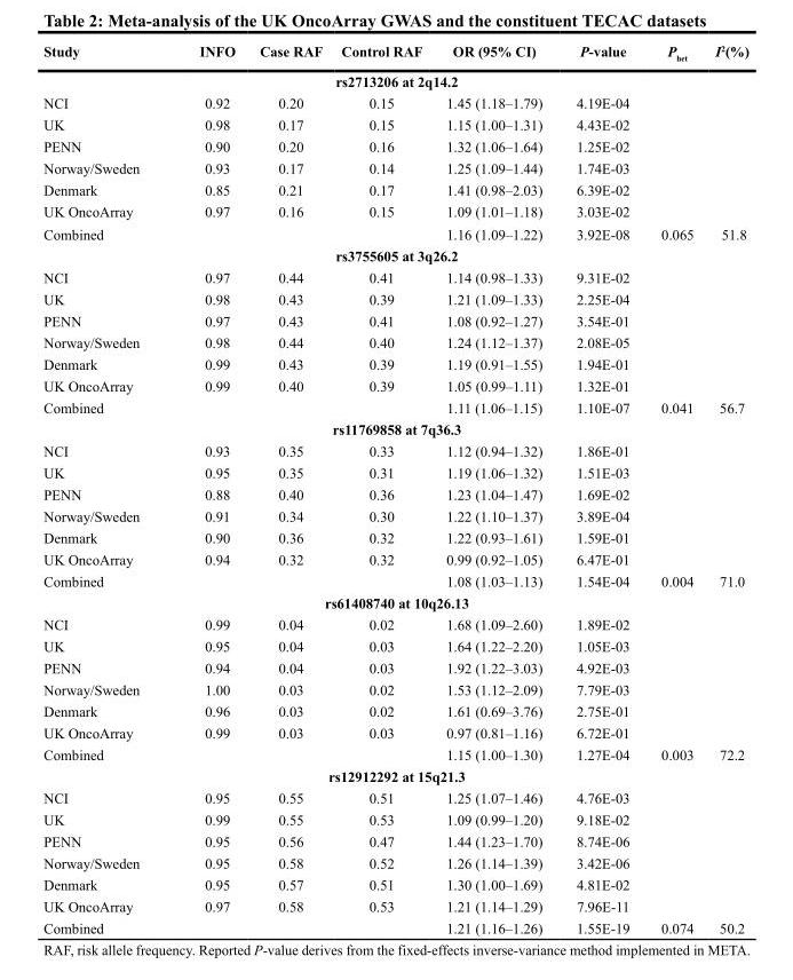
<table><thead><tr><td>Study</td><td>INFO</td><td>Case RAF</td><td>Control RAF</td><td>OR (95% CI)</td><td>P-value</td><td>P<sub>het</sub></td><td>I<sup>2</sup>(%)</td></tr></thead><tbody><tr><td colspan="8">rs2713206 at 2q14.2</td></tr><tr><td>NCI</td><td>0.92</td><td>0.20</td><td>0.15</td><td>1.45 (1.18–1.79)</td><td>4.19E-04</td><td></td><td></td></tr><tr><td>UK</td><td>0.98</td><td>0.17</td><td>0.15</td><td>1.15 (1.00–1.31)</td><td>4.43E-02</td><td></td><td></td></tr><tr><td>PENN</td><td>0.90</td><td>0.20</td><td>0.16</td><td>1.32 (1.06–1.64)</td><td>1.25E-02</td><td></td><td></td></tr><tr><td>Norway/Sweden</td><td>0.93</td><td>0.17</td><td>0.14</td><td>1.25 (1.09–1.44)</td><td>1.74E-03</td><td></td><td></td></tr><tr><td>Denmark</td><td>0.85</td><td>0.21</td><td>0.17</td><td>1.41 (0.98–2.03)</td><td>6.39E-02</td><td></td><td></td></tr><tr><td>UK OncoArray</td><td>0.97</td><td>0.16</td><td>0.15</td><td>1.09 (1.01–1.18)</td><td>3.03E-02</td><td></td><td></td></tr><tr><td>Combined</td><td></td><td></td><td></td><td>1.16 (1.09–1.22)</td><td>3.92E-08</td><td>0.065</td><td>51.8</td></tr><tr><td colspan="8">rs3755605 at 3q26.2</td></tr><tr><td>NCI</td><td>0.97</td><td>0.44</td><td>0.41</td><td>1.14 (0.98–1.33)</td><td>9.31E-02</td><td></td><td></td></tr><tr><td>UK</td><td>0.98</td><td>0.43</td><td>0.39</td><td>1.21 (1.09–1.33)</td><td>2.25E-04</td><td></td><td></td></tr><tr><td>PENN</td><td>0.97</td><td>0.43</td><td>0.41</td><td>1.08 (0.92–1.27)</td><td>3.54E-01</td><td></td><td></td></tr><tr><td>Norway/Sweden</td><td>0.98</td><td>0.44</td><td>0.40</td><td>1.24 (1.12–1.37)</td><td>2.08E-05</td><td></td><td></td></tr><tr><td>Denmark</td><td>0.99</td><td>0.43</td><td>0.39</td><td>1.19 (0.91–1.55)</td><td>1.94E-01</td><td></td><td></td></tr><tr><td>UK OncoArray</td><td>0.99</td><td>0.40</td><td>0.39</td><td>1.05 (0.99–1.11)</td><td>1.32E-01</td><td></td><td></td></tr><tr><td>Combined</td><td></td><td></td><td></td><td>1.11 (1.06–1.15)</td><td>1.10E-07</td><td>0.041</td><td>56.7</td></tr><tr><td colspan="8">rs11769858 at 7q36.3</td></tr><tr><td>NCI</td><td>0.93</td><td>0.35</td><td>0.33</td><td>1.12 (0.94–1.32)</td><td>1.86E-01</td><td></td><td></td></tr><tr><td>UK</td><td>0.95</td><td>0.35</td><td>0.31</td><td>1.19 (1.06–1.32)</td><td>1.51E-03</td><td></td><td></td></tr><tr><td>PENN</td><td>0.88</td><td>0.40</td><td>0.36</td><td>1.23 (1.04–1.47)</td><td>1.69E-02</td><td></td><td></td></tr><tr><td>Norway/Sweden</td><td>0.91</td><td>0.34</td><td>0.30</td><td>1.22 (1.10–1.37)</td><td>3.89E-04</td><td></td><td></td></tr><tr><td>Denmark</td><td>0.90</td><td>0.36</td><td>0.32</td><td>1.22 (0.93–1.61)</td><td>1.59E-01</td><td></td><td></td></tr><tr><td>UK OncoArray</td><td>0.94</td><td>0.32</td><td>0.32</td><td>0.99 (0.92–1.05)</td><td>6.47E-01</td><td></td><td></td></tr><tr><td>Combined</td><td></td><td></td><td></td><td>1.08 (1.03–1.13)</td><td>1.54E-04</td><td>0.004</td><td>71.0</td></tr><tr><td colspan="8">rs61408740 at 10q26.13</td></tr><tr><td>NCI</td><td>0.99</td><td>0.04</td><td>0.02</td><td>1.68 (1.09–2.60)</td><td>1.89E-02</td><td></td><td></td></tr><tr><td>UK</td><td>0.95</td><td>0.04</td><td>0.03</td><td>1.64 (1.22–2.20)</td><td>1.05E-03</td><td></td><td></td></tr><tr><td>PENN</td><td>0.94</td><td>0.04</td><td>0.03</td><td>1.92 (1.22–3.03)</td><td>4.92E-03</td><td></td><td></td></tr><tr><td>Norway/Sweden</td><td>1.00</td><td>0.03</td><td>0.02</td><td>1.53 (1.12–2.09)</td><td>7.79E-03</td><td></td><td></td></tr><tr><td>Denmark</td><td>0.96</td><td>0.03</td><td>0.02</td><td>1.61 (0.69–3.76)</td><td>2.75E-01</td><td></td><td></td></tr><tr><td>UK OncoArray</td><td>0.99</td><td>0.03</td><td>0.03</td><td>0.97 (0.81–1.16)</td><td>6.72E-01</td><td></td><td></td></tr><tr><td>Combined</td><td></td><td></td><td></td><td>1.15 (1.00–1.30)</td><td>1.27E-04</td><td>0.003</td><td>72.2</td></tr><tr><td colspan="8">rs12912292 at 15q21.3</td></tr><tr><td>NCI</td><td>0.95</td><td>0.55</td><td>0.51</td><td>1.25 (1.07–1.46)</td><td>4.76E-03</td><td></td><td></td></tr><tr><td>UK</td><td>0.99</td><td>0.55</td><td>0.53</td><td>1.09 (0.99–1.20)</td><td>9.18E-02</td><td></td><td></td></tr><tr><td>PENN</td><td>0.95</td><td>0.56</td><td>0.47</td><td>1.44 (1.23–1.70)</td><td>8.74E-06</td><td></td><td></td></tr><tr><td>Norway/Sweden</td><td>0.95</td><td>0.58</td><td>0.52</td><td>1.26 (1.14–1.39)</td><td>3.42E-06</td><td></td><td></td></tr><tr><td>Denmark</td><td>0.95</td><td>0.57</td><td>0.51</td><td>1.30 (1.00–1.69)</td><td>4.81E-02</td><td></td><td></td></tr><tr><td>UK OncoArray</td><td>0.97</td><td>0.58</td><td>0.53</td><td>1.21 (1.14–1.29)</td><td>7.96E-11</td><td></td><td></td></tr><tr><td>Combined</td><td></td><td></td><td></td><td>1.21 (1.16–1.26)</td><td>1.55E-19</td><td>0.074</td><td>50.2</td></tr></tbody></table>